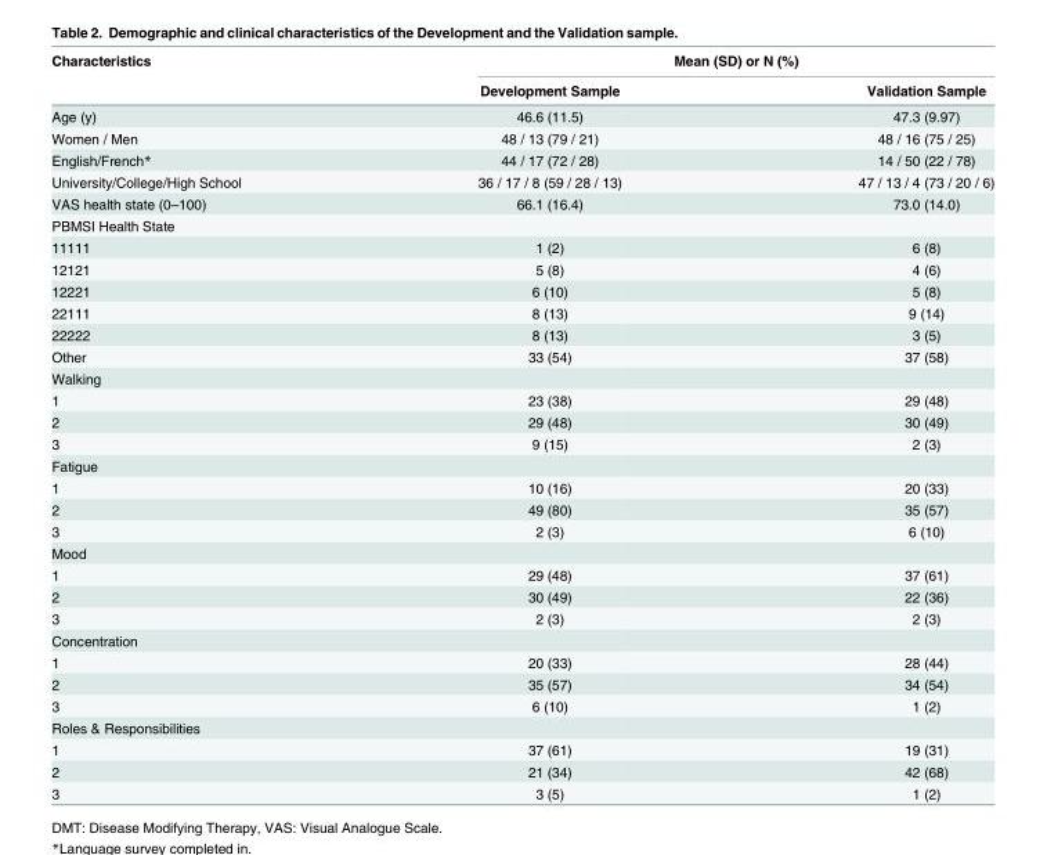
<table><thead><tr><td rowspan="2">Characteristics</td><td colspan="2">Mean (SD) or N (%)</td></tr><tr><td>Development Sample</td><td>Validation Sample</td></tr></thead><tbody><tr><td>Age (y)</td><td>46.6 (11.5)</td><td>47.3 (9.97)</td></tr><tr><td>Women / Men</td><td>48 / 13 (79 / 21)</td><td>48 / 16 (75 / 25)</td></tr><tr><td>English/French*</td><td>44 / 17 (72 / 28)</td><td>14 / 50 (22 / 78)</td></tr><tr><td>University/College/High School</td><td>36 / 17 / 8 (59 / 28 / 13)</td><td>47 / 13 / 4 (73 / 20 / 6)</td></tr><tr><td>VAS health state (0–100)</td><td>66.1 (16.4)</td><td>73.0 (14.0)</td></tr><tr><td colspan="3">PBMSI Health State</td></tr><tr><td>11111</td><td>1 (2)</td><td>6 (8)</td></tr><tr><td>12121</td><td>5 (8)</td><td>4 (6)</td></tr><tr><td>12221</td><td>6 (10)</td><td>5 (8)</td></tr><tr><td>22111</td><td>8 (13)</td><td>9 (14)</td></tr><tr><td>22222</td><td>8 (13)</td><td>3 (5)</td></tr><tr><td>Other</td><td>33 (54)</td><td>37 (58)</td></tr><tr><td colspan="3">Walking</td></tr><tr><td>1</td><td>23 (38)</td><td>29 (48)</td></tr><tr><td>2</td><td>29 (48)</td><td>30 (49)</td></tr><tr><td>3</td><td>9 (15)</td><td>2 (3)</td></tr><tr><td colspan="3">Fatigue</td></tr><tr><td>1</td><td>10 (16)</td><td>20 (33)</td></tr><tr><td>2</td><td>49 (80)</td><td>35 (57)</td></tr><tr><td>3</td><td>2 (3)</td><td>6 (10)</td></tr><tr><td colspan="3">Mood</td></tr><tr><td>1</td><td>29 (48)</td><td>37 (61)</td></tr><tr><td>2</td><td>30 (49)</td><td>22 (36)</td></tr><tr><td>3</td><td>2 (3)</td><td>2 (3)</td></tr><tr><td colspan="3">Concentration</td></tr><tr><td>1</td><td>20 (33)</td><td>28 (44)</td></tr><tr><td>2</td><td>35 (57)</td><td>34 (54)</td></tr><tr><td>3</td><td>6 (10)</td><td>1 (2)</td></tr><tr><td colspan="3">Roles &amp; Responsibilities</td></tr><tr><td>1</td><td>37 (61)</td><td>19 (31)</td></tr><tr><td>2</td><td>21 (34)</td><td>42 (68)</td></tr><tr><td>3</td><td>3 (5)</td><td>1 (2)</td></tr></tbody></table>